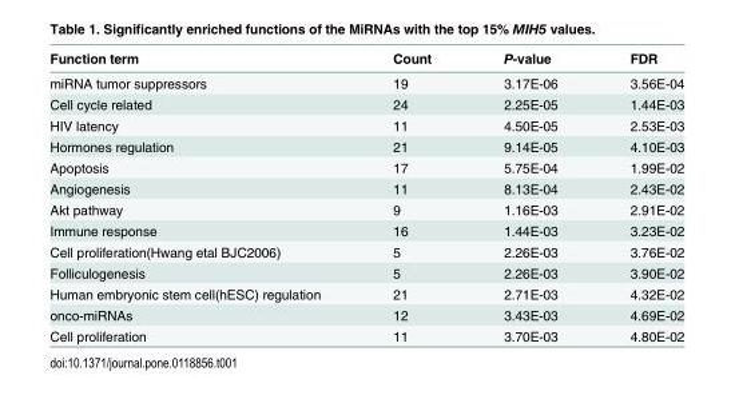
<table><thead><tr><td>Function term</td><td>Count</td><td>P-value</td><td>FDR</td></tr></thead><tbody><tr><td>miRNA tumor suppressors</td><td>19</td><td>3.17E-06</td><td>3.56E-04</td></tr><tr><td>Cell cycle related</td><td>24</td><td>2.25E-05</td><td>1.44E-03</td></tr><tr><td>HIV latency</td><td>11</td><td>4.50E-05</td><td>2.53E-03</td></tr><tr><td>Hormones regulation</td><td>21</td><td>9.14E-05</td><td>4.10E-03</td></tr><tr><td>Apoptosis</td><td>17</td><td>5.75E-04</td><td>1.99E-02</td></tr><tr><td>Angiogenesis</td><td>11</td><td>8.13E-04</td><td>2.43E-02</td></tr><tr><td>Akt pathway</td><td>9</td><td>1.16E-03</td><td>2.91E-02</td></tr><tr><td>Immune response</td><td>16</td><td>1.44E-03</td><td>3.23E-02</td></tr><tr><td>Cell proliferation(Hwang etal BJC2006)</td><td>5</td><td>2.26E-03</td><td>3.76E-02</td></tr><tr><td>Folliculogenesis</td><td>5</td><td>2.26E-03</td><td>3.90E-02</td></tr><tr><td>Human embryonic stem cell(hESC) regulation</td><td>21</td><td>2.71E-03</td><td>4.32E-02</td></tr><tr><td>onco-miRNAs</td><td>12</td><td>3.43E-03</td><td>4.69E-02</td></tr><tr><td>Cell proliferation</td><td>11</td><td>3.70E-03</td><td>4.80E-02</td></tr></tbody></table>